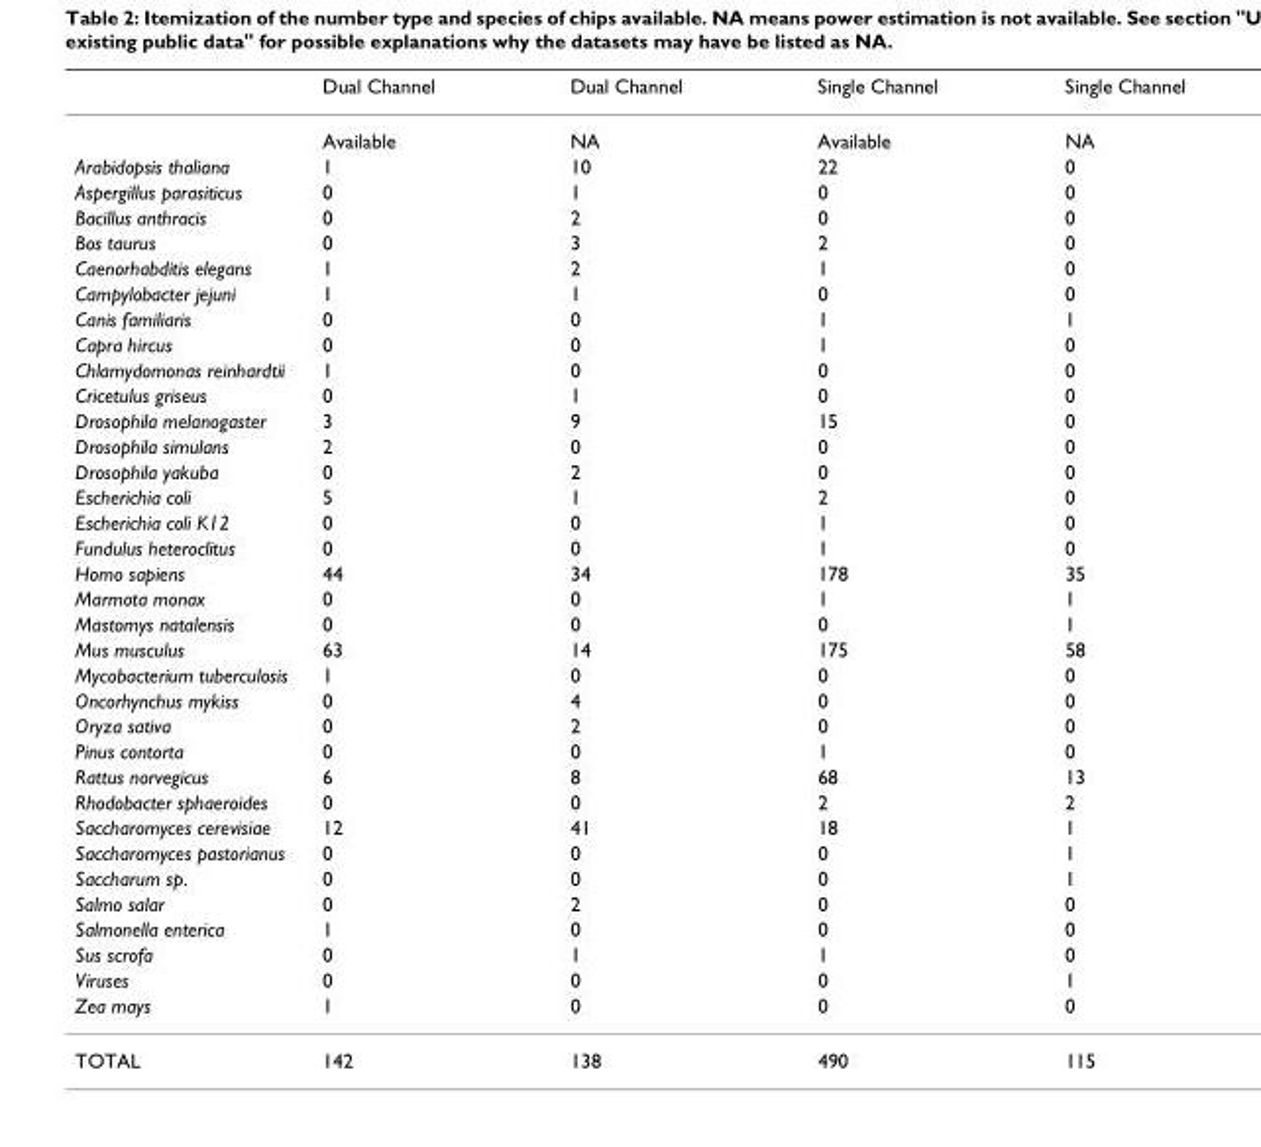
<table><thead><tr><td></td><td>Dual Channel</td><td>Dual Channel</td><td>Single Channel</td><td>Single Channel</td></tr></thead><tbody><tr><td></td><td>Available</td><td>NA</td><td>Available</td><td>NA</td></tr><tr><td>Arabidopsis thaliana</td><td>1</td><td>10</td><td>22</td><td>0</td></tr><tr><td>Aspergillus parasiticus</td><td>0</td><td>1</td><td>0</td><td>0</td></tr><tr><td>Bacillus anthracis</td><td>0</td><td>2</td><td>0</td><td>0</td></tr><tr><td>Bos taurus</td><td>0</td><td>3</td><td>2</td><td>0</td></tr><tr><td>Caenorhabditis elegans</td><td>1</td><td>2</td><td>1</td><td>0</td></tr><tr><td>Campylobacter jejuni</td><td>1</td><td>1</td><td>0</td><td>0</td></tr><tr><td>Canis familiaris</td><td>0</td><td>0</td><td>1</td><td>1</td></tr><tr><td>Capra hircus</td><td>0</td><td>0</td><td>1</td><td>0</td></tr><tr><td>Chlamydomonas reinhardtii</td><td>1</td><td>0</td><td>0</td><td>0</td></tr><tr><td>Cricetulus griseus</td><td>0</td><td>1</td><td>0</td><td>0</td></tr><tr><td>Drosophila melanogaster</td><td>3</td><td>9</td><td>15</td><td>0</td></tr><tr><td>Drosophila simulans</td><td>2</td><td>0</td><td>0</td><td>0</td></tr><tr><td>Drosophila yakuba</td><td>0</td><td>2</td><td>0</td><td>0</td></tr><tr><td>Escherichia coli</td><td>5</td><td>1</td><td>2</td><td>0</td></tr><tr><td>Escherichia coli K12</td><td>0</td><td>0</td><td>1</td><td>0</td></tr><tr><td>Fundulus heteroclitus</td><td>0</td><td>0</td><td>1</td><td>0</td></tr><tr><td>Homo sapiens</td><td>44</td><td>34</td><td>178</td><td>35</td></tr><tr><td>Marmota monax</td><td>0</td><td>0</td><td>1</td><td>1</td></tr><tr><td>Mastomys natalensis</td><td>0</td><td>0</td><td>0</td><td>1</td></tr><tr><td>Mus musculus</td><td>63</td><td>14</td><td>175</td><td>58</td></tr><tr><td>Mycobacterium tuberculosis</td><td>1</td><td>0</td><td>0</td><td>0</td></tr><tr><td>Oncorhynchus mykiss</td><td>0</td><td>4</td><td>0</td><td>0</td></tr><tr><td>Oryza sativa</td><td>0</td><td>2</td><td>0</td><td>0</td></tr><tr><td>Pinus contorta</td><td>0</td><td>0</td><td>1</td><td>0</td></tr><tr><td>Rattus norvegicus</td><td>6</td><td>8</td><td>68</td><td>13</td></tr><tr><td>Rhodobacter sphaeroides</td><td>0</td><td>0</td><td>2</td><td>2</td></tr><tr><td>Saccharomyces cerevisiae</td><td>12</td><td>41</td><td>18</td><td>1</td></tr><tr><td>Saccharomyces pastorianus</td><td>0</td><td>0</td><td>0</td><td>1</td></tr><tr><td>Saccharum sp.</td><td>0</td><td>0</td><td>0</td><td>1</td></tr><tr><td>Salmo salar</td><td>0</td><td>2</td><td>0</td><td>0</td></tr><tr><td>Salmonella enterica</td><td>1</td><td>0</td><td>0</td><td>0</td></tr><tr><td>Sus scrofa</td><td>0</td><td>1</td><td>1</td><td>0</td></tr><tr><td>Viruses</td><td>0</td><td>0</td><td>0</td><td>1</td></tr><tr><td>Zea mays</td><td>1</td><td>0</td><td>0</td><td>0</td></tr><tr><td>TOTAL</td><td>142</td><td>138</td><td>490</td><td>115</td></tr></tbody></table>